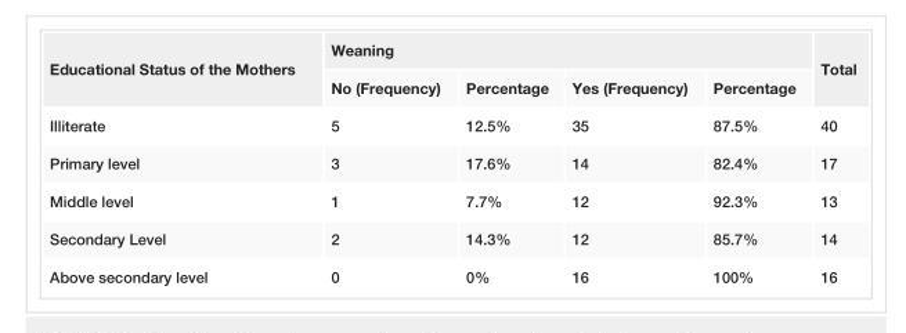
<table><tbody><tr><td rowspan="2">Educational Status of the Mothers</td><td colspan="4">Weaning</td><td rowspan="2">Total</td></tr><tr><td>No (Frequency)</td><td>Percentage</td><td>Yes (Frequency)</td><td>Percentage</td></tr><tr><td>Illiterate</td><td>5</td><td>12.5%</td><td>35</td><td>87.5%</td><td>40</td></tr><tr><td>Primary level</td><td>3</td><td>17.6%</td><td>14</td><td>82.4%</td><td>17</td></tr><tr><td>Middle level</td><td>1</td><td>7.7%</td><td>12</td><td>92.3%</td><td>13</td></tr><tr><td>Secondary Level</td><td>2</td><td>14.3%</td><td>12</td><td>85.7%</td><td>14</td></tr><tr><td>Above secondary level</td><td>0</td><td>0%</td><td>16</td><td>100%</td><td>16</td></tr></tbody></table>